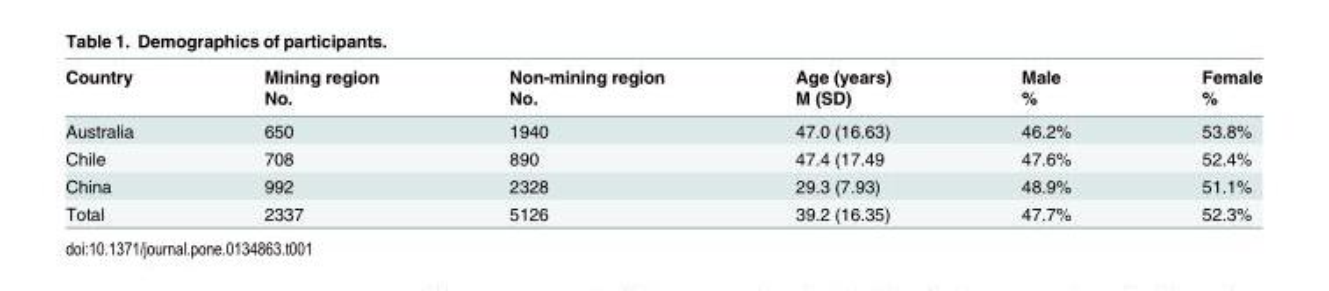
<table><thead><tr><td rowspan="2">Country</td><td rowspan="2">Mining region No.</td><td rowspan="2">Non-mining region No.</td><td rowspan="2">Age (years) M (SD)</td><td rowspan="2">Male %</td><td rowspan="2">Female %</td></tr><tr></tr></thead><tbody><tr><td>Australia</td><td>650</td><td>1940</td><td>47.0 (16.63)</td><td>46.2%</td><td>53.8%</td></tr><tr><td>Chile</td><td>708</td><td>890</td><td>47.4 (17.49</td><td>47.6%</td><td>52.4%</td></tr><tr><td>China</td><td>992</td><td>2328</td><td>29.3 (7.93)</td><td>48.9%</td><td>51.1%</td></tr><tr><td>Total</td><td>2337</td><td>5126</td><td>39.2 (16.35)</td><td>47.7%</td><td>52.3%</td></tr></tbody></table>